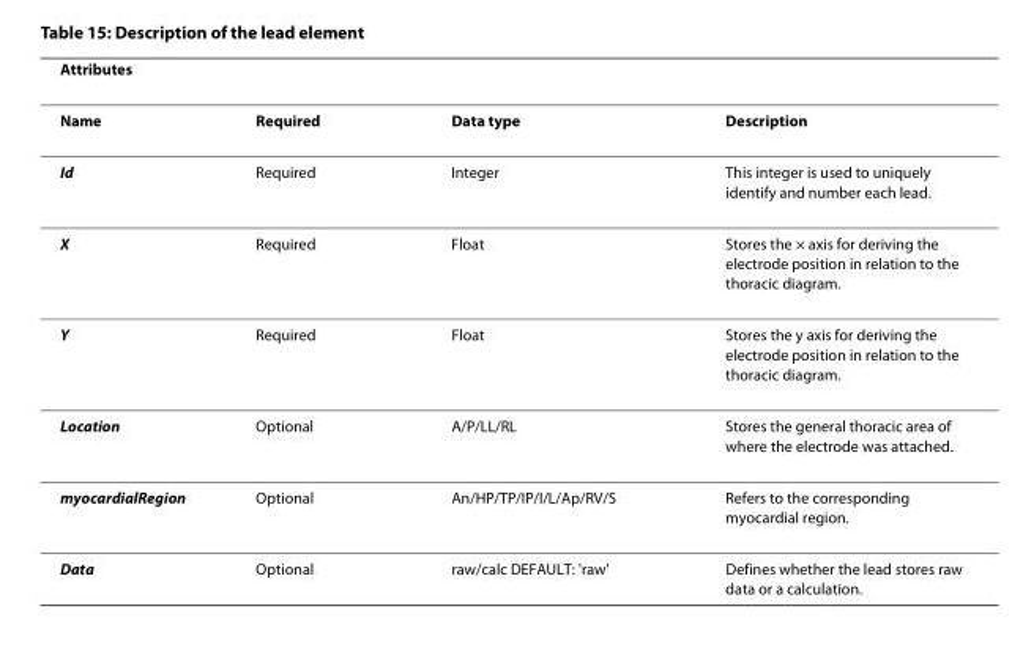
<table><thead><tr><td>Attributes</td><td></td><td></td><td></td></tr></thead><tbody><tr><td>Name</td><td>Required</td><td>Data type</td><td>Description</td></tr><tr><td>Id</td><td>Required</td><td>Integer</td><td>This integer is used to uniquely identify and number each lead.</td></tr><tr><td>X</td><td>Required</td><td>Float</td><td>Stores the × axis for deriving the electrode position in relation to the thoracic diagram.</td></tr><tr><td>Y</td><td>Required</td><td>Float</td><td>Stores the y axis for deriving the electrode position in relation to the thoracic diagram.</td></tr><tr><td>Location</td><td>Optional</td><td>A/P/LL/RL</td><td>Stores the general thoracic area of where the electrode was attached.</td></tr><tr><td>myocardialRegion</td><td>Optional</td><td>An/HP/TP/IP/I/L/Ap/RV/S</td><td>Refers to the corresponding myocardial region.</td></tr><tr><td>Data</td><td>Optional</td><td>raw/calc DEFAULT: &#x27;raw&#x27;</td><td>Defines whether the lead stores raw data or a calculation.</td></tr></tbody></table>